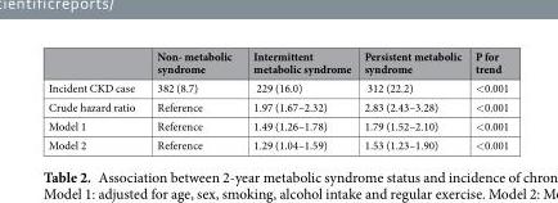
<table><thead><tr><td></td><td>Non- metabolic syndrome</td><td>Intermittent metabolic syndrome</td><td>Persistent metabolic syndrome</td><td>P for trend</td></tr></thead><tbody><tr><td>Incident CKD case</td><td>382 (8.7)</td><td>229 (16.0)</td><td>312 (22.2)</td><td>&lt;0.001</td></tr><tr><td>Crude hazard ratio</td><td>Reference</td><td>1.97 (1.67–2.32)</td><td>2.83 (2.43–3.28)</td><td>&lt;0.001</td></tr><tr><td>Model 1</td><td>Reference</td><td>1.49 (1.26–1.78)</td><td>1.79 (1.52–2.10)</td><td>&lt;0.001</td></tr><tr><td>Model 2</td><td>Reference</td><td>1.29 (1.04–1.59)</td><td>1.53 (1.23–1.90)</td><td>&lt;0.001</td></tr></tbody></table>